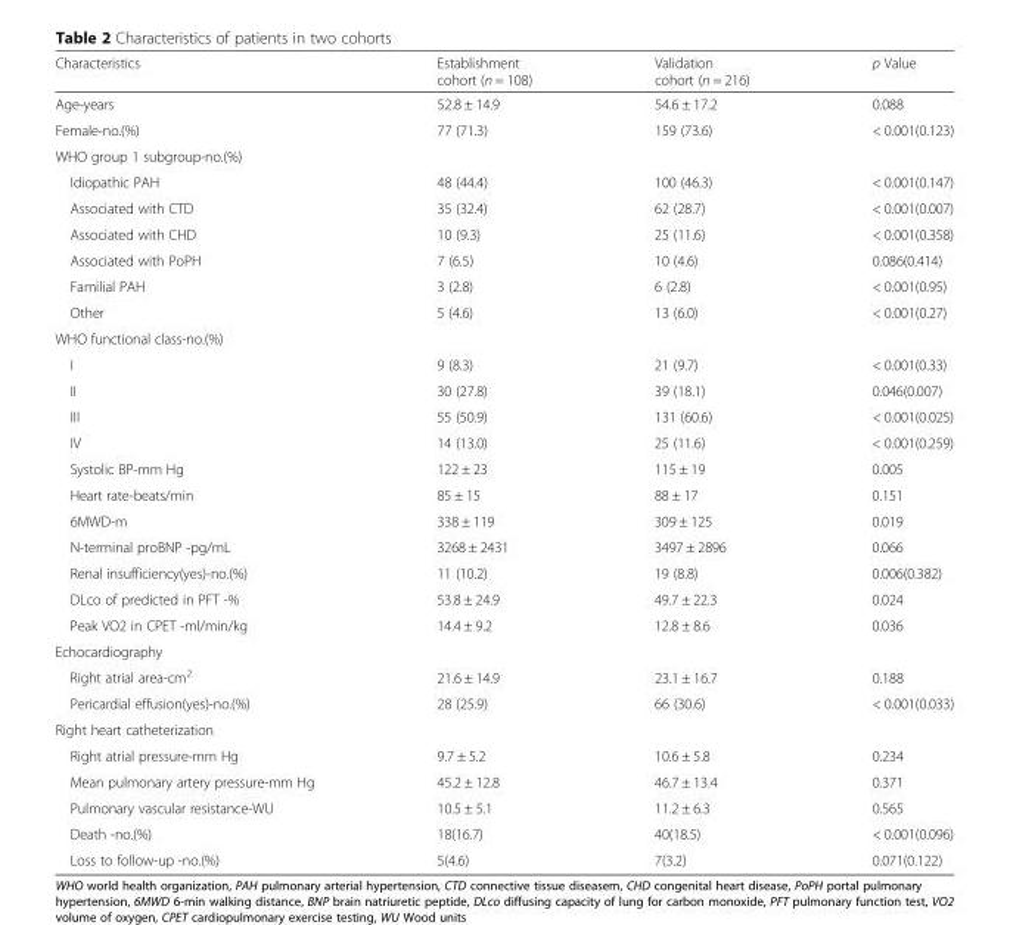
<table><thead><tr><td>Characteristics</td><td>Establishment cohort (n = 108)</td><td>Validation cohort (n = 216)</td><td>p Value</td></tr></thead><tbody><tr><td>Age-years</td><td>52.8 ± 14.9</td><td>54.6 ± 17.2</td><td>0.088</td></tr><tr><td>Female-no.(%)</td><td>77 (71.3)</td><td>159 (73.6)</td><td>&lt; 0.001(0.123)</td></tr><tr><td colspan="4">WHO group 1 subgroup-no.(%)</td></tr><tr><td>Idiopathic PAH</td><td>48 (44.4)</td><td>100 (46.3)</td><td>&lt; 0.001(0.147)</td></tr><tr><td>Associated with CTD</td><td>35 (32.4)</td><td>62 (28.7)</td><td>&lt; 0.001(0.007)</td></tr><tr><td>Associated with CHD</td><td>10 (9.3)</td><td>25 (11.6)</td><td>&lt; 0.001(0.358)</td></tr><tr><td>Associated with PoPH</td><td>7 (6.5)</td><td>10 (4.6)</td><td>0.086(0.414)</td></tr><tr><td>Familial PAH</td><td>3 (2.8)</td><td>6 (2.8)</td><td>&lt; 0.001(0.95)</td></tr><tr><td>Other</td><td>5 (4.6)</td><td>13 (6.0)</td><td>&lt; 0.001(0.27)</td></tr><tr><td colspan="4">WHO functional class-no.(%)</td></tr><tr><td>I</td><td>9 (8.3)</td><td>21 (9.7)</td><td>&lt; 0.001(0.33)</td></tr><tr><td>II</td><td>30 (27.8)</td><td>39 (18.1)</td><td>0.046(0.007)</td></tr><tr><td>III</td><td>55 (50.9)</td><td>131 (60.6)</td><td>&lt; 0.001(0.025)</td></tr><tr><td>IV</td><td>14 (13.0)</td><td>25 (11.6)</td><td>&lt; 0.001(0.259)</td></tr><tr><td>Systolic BP-mm Hg</td><td>122 ± 23</td><td>115 ± 19</td><td>0.005</td></tr><tr><td>Heart rate-beats/min</td><td>85 ± 15</td><td>88 ± 17</td><td>0.151</td></tr><tr><td>6MWD-m</td><td>338 ± 119</td><td>309 ± 125</td><td>0.019</td></tr><tr><td>N-terminal proBNP -pg/mL</td><td>3268 ± 2431</td><td>3497 ± 2896</td><td>0.066</td></tr><tr><td>Renal insufficiency(yes)-no.(%)</td><td>11 (10.2)</td><td>19 (8.8)</td><td>0.006(0.382)</td></tr><tr><td>DLco of predicted in PFT -%</td><td>53.8 ± 24.9</td><td>49.7 ± 22.3</td><td>0.024</td></tr><tr><td>Peak VO2 in CPET -ml/min/kg</td><td>14.4 ± 9.2</td><td>12.8 ± 8.6</td><td>0.036</td></tr><tr><td colspan="4">Echocardiography</td></tr><tr><td>Right atrial area-cm<sup>2</sup></td><td>21.6 ± 14.9</td><td>23.1 ± 16.7</td><td>0.188</td></tr><tr><td>Pericardial effusion(yes)-no.(%)</td><td>28 (25.9)</td><td>66 (30.6)</td><td>&lt; 0.001(0.033)</td></tr><tr><td colspan="4">Right heart catheterization</td></tr><tr><td>Right atrial pressure-mm Hg</td><td>9.7 ± 5.2</td><td>10.6 ± 5.8</td><td>0.234</td></tr><tr><td>Mean pulmonary artery pressure-mm Hg</td><td>45.2 ± 12.8</td><td>46.7 ± 13.4</td><td>0.371</td></tr><tr><td>Pulmonary vascular resistance-WU</td><td>10.5 ± 5.1</td><td>11.2 ± 6.3</td><td>0.565</td></tr><tr><td>Death -no.(%)</td><td>18(16.7)</td><td>40(18.5)</td><td>&lt; 0.001(0.096)</td></tr><tr><td>Loss to follow-up -no.(%)</td><td>5(4.6)</td><td>7(3.2)</td><td>0.071(0.122)</td></tr></tbody></table>